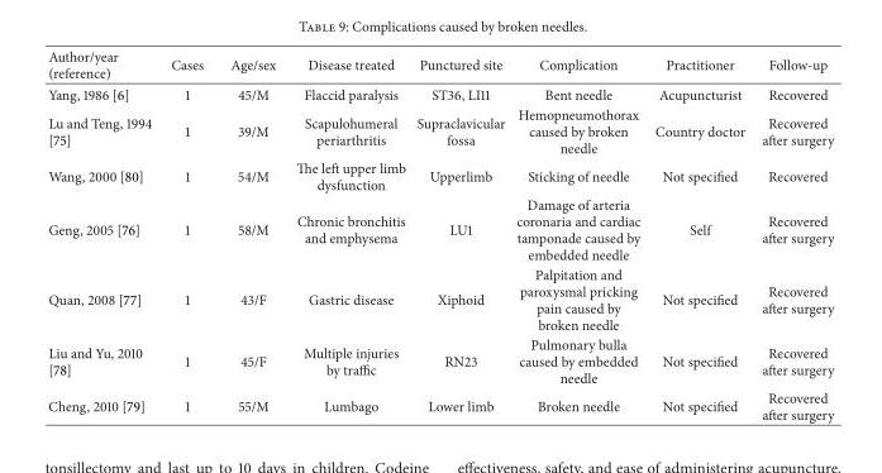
<table><thead><tr><td>Author/year (reference)</td><td>Cases</td><td>Age/sex</td><td>Disease treated</td><td>Punctured site</td><td>Complication</td><td>Practitioner</td><td>Follow-up</td></tr></thead><tbody><tr><td>Yang, 1986 [6]</td><td>1</td><td>45/M</td><td>Flaccid paralysis</td><td>ST36, LI11</td><td>Bent needle</td><td>Acupuncturist</td><td>Recovered</td></tr><tr><td>Lu and Teng, 1994 [75]</td><td>1</td><td>39/M</td><td>Scapulohumeral periarthritis</td><td>Supraclavicular fossa</td><td>Hemopneumothorax caused by broken needle</td><td>Country doctor</td><td>Recovered after surgery</td></tr><tr><td>Wang, 2000 [80]</td><td>1</td><td>54/M</td><td>The left upper limb dysfunction</td><td>Upperlimb</td><td>Sticking of needle</td><td>Not specified</td><td>Recovered</td></tr><tr><td>Geng, 2005 [76]</td><td>1</td><td>58/M</td><td>Chronic bronchitis and emphysema</td><td>LU1</td><td>Damage of arteria coronaria and cardiac tamponade caused by embedded needle</td><td>Self</td><td>Recovered after surgery</td></tr><tr><td>Quan, 2008 [77]</td><td>1</td><td>43/F</td><td>Gastric disease</td><td>Xiphoid</td><td>Palpitation and paroxysmal pricking pain caused by broken needle</td><td>Not specified</td><td>Recovered after surgery</td></tr><tr><td>Liu and Yu, 2010 [78]</td><td>1</td><td>45/F</td><td>Multiple injuries by traffic</td><td>RN23</td><td>Pulmonary bulla caused by embedded needle</td><td>Not specified</td><td>Recovered after surgery</td></tr><tr><td>Cheng, 2010 [79]</td><td>1</td><td>55/M</td><td>Lumbago</td><td>Lower limb</td><td>Broken needle</td><td>Not specified</td><td>Recovered after surgery</td></tr></tbody></table>